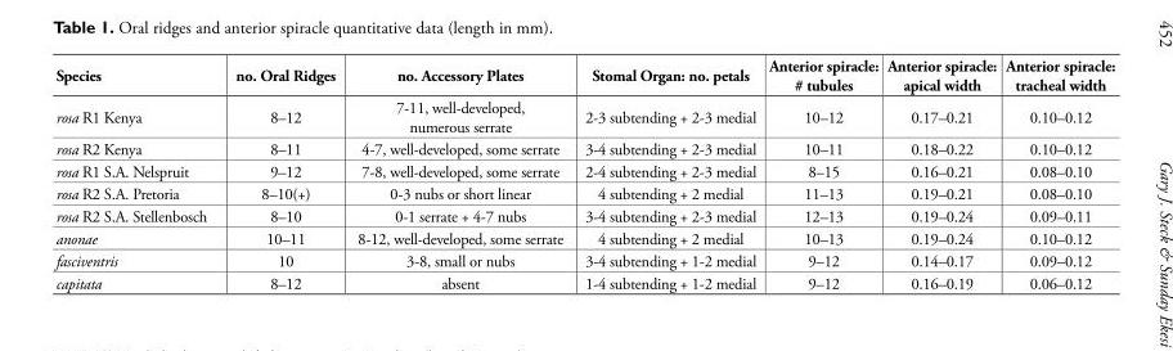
<table><thead><tr><td>Species</td><td>no. Oral Ridges</td><td>no. Accessory Plates</td><td>Stomal Organ: no. petals</td><td>Anterior spiracle: # tubules</td><td>Anterior spiracle: apical width</td><td>Anterior spiracle: tracheal width</td></tr></thead><tbody><tr><td>rosa R1 Kenya</td><td>8–12</td><td>7-11, well-developed, numerous serrate</td><td>2-3 subtending + 2-3 medial</td><td>10–12</td><td>0.17–0.21</td><td>0.10–0.12</td></tr><tr><td>rosa R2 Kenya</td><td>8–11</td><td>4-7, well-developed, some serrate</td><td>3-4 subtending + 2-3 medial</td><td>10–11</td><td>0.18–0.22</td><td>0.10–0.12</td></tr><tr><td>rosa R1 S.A. Nelspruit</td><td>9–12</td><td>7-8, well-developed, some serrate</td><td>2-4 subtending + 2-3 medial</td><td>8–15</td><td>0.16–0.21</td><td>0.08–0.10</td></tr><tr><td>rosa R2 S.A. Pretoria</td><td>8–10(+)</td><td>0-3 nubs or short linear</td><td>4 subtending + 2 medial</td><td>11–13</td><td>0.19–0.21</td><td>0.08–0.10</td></tr><tr><td>rosa R2 S.A. Stellenbosch</td><td>8–10</td><td>0-1 serrate + 4-7 nubs</td><td>3-4 subtending + 2-3 medial</td><td>12–13</td><td>0.19–0.24</td><td>0.09–0.11</td></tr><tr><td>anonae</td><td>10–11</td><td>8-12, well-developed, some serrate</td><td>4 subtending + 2 medial</td><td>10–13</td><td>0.19–0.24</td><td>0.10–0.12</td></tr><tr><td>fasciventris</td><td>10</td><td>3-8, small or nubs</td><td>3-4 subtending + 1-2 medial</td><td>9–12</td><td>0.14–0.17</td><td>0.09–0.12</td></tr><tr><td>capitata</td><td>8–12</td><td>absent</td><td>1-4 subtending + 1-2 medial</td><td>9–12</td><td>0.16–0.19</td><td>0.06–0.12</td></tr></tbody></table>